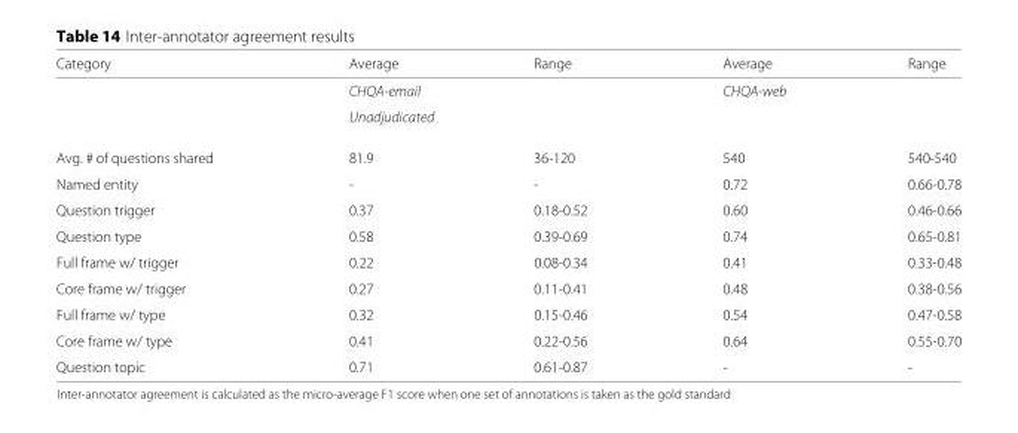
<table><thead><tr><td>Category</td><td>Average</td><td>Range</td><td>Average</td><td>Range</td></tr></thead><tbody><tr><td></td><td colspan="2">CHQA-email</td><td colspan="2">CHQA-web</td></tr><tr><td></td><td colspan="2">Unadjudicated</td><td></td><td></td></tr><tr><td>Avg. # of questions shared</td><td>81.9</td><td>36-120</td><td>540</td><td>540-540</td></tr><tr><td>Named entity</td><td>-</td><td>-</td><td>0.72</td><td>0.66-0.78</td></tr><tr><td>Question trigger</td><td>0.37</td><td>0.18-0.52</td><td>0.60</td><td>0.46-0.66</td></tr><tr><td>Question type</td><td>0.58</td><td>0.39-0.69</td><td>0.74</td><td>0.65-0.81</td></tr><tr><td>Full frame w/ trigger</td><td>0.22</td><td>0.08-0.34</td><td>0.41</td><td>0.33-0.48</td></tr><tr><td>Core frame w/ trigger</td><td>0.27</td><td>0.11-0.41</td><td>0.48</td><td>0.38-0.56</td></tr><tr><td>Full frame w/ type</td><td>0.32</td><td>0.15-0.46</td><td>0.54</td><td>0.47-0.58</td></tr><tr><td>Core frame w/ type</td><td>0.41</td><td>0.22-0.56</td><td>0.64</td><td>0.55-0.70</td></tr><tr><td>Question topic</td><td>0.71</td><td>0.61-0.87</td><td>-</td><td>-</td></tr></tbody></table>